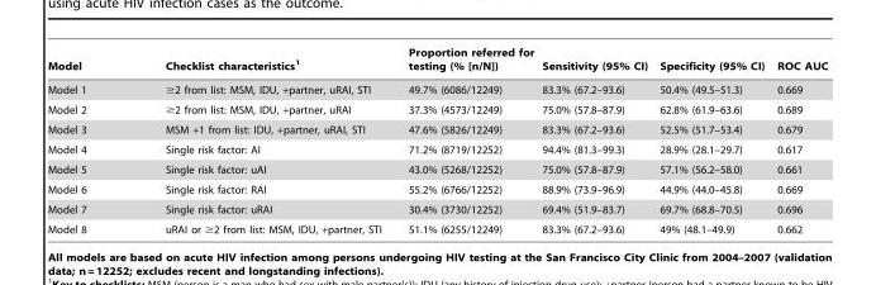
<table><thead><tr><td>Model</td><td>Checklist characteristics<sup>1</sup></td><td>Proportion referred for testing (% [n/N])</td><td>Sensitivity (95% CI)</td><td>Specificity (95% CI)</td><td>ROC AUC</td></tr></thead><tbody><tr><td>Model 1</td><td>≥2 from list: MSM, IDU, +partner, uRAI, STI</td><td>49.7% (6086/12249)</td><td>83.3% (67.2–93.6)</td><td>50.4% (49.5–51.3)</td><td>0.669</td></tr><tr><td>Model 2</td><td>≥2 from list: MSM, IDU, +partner, uRAI</td><td>37.3% (4573/12249)</td><td>75.0% (57.8–87.9)</td><td>62.8% (61.9–63.6)</td><td>0.689</td></tr><tr><td>Model 3</td><td>MSM +1 from list: IDU, +partner, uRAI, STI</td><td>47.6% (5826/12249)</td><td>83.3% (67.2–93.6)</td><td>52.5% (51.7–53.4)</td><td>0.679</td></tr><tr><td>Model 4</td><td>Single risk factor: AI</td><td>71.2% (8719/12252)</td><td>94.4% (81.3–99.3)</td><td>28.9% (28.1–29.7)</td><td>0.617</td></tr><tr><td>Model 5</td><td>Single risk factor: uAI</td><td>43.0% (5268/12252)</td><td>75.0% (57.8–87.9)</td><td>57.1% (56.2–58.0)</td><td>0.661</td></tr><tr><td>Model 6</td><td>Single risk factor: RAI</td><td>55.2% (6766/12252)</td><td>88.9% (73.9–96.9)</td><td>44.9% (44.0–45.8)</td><td>0.669</td></tr><tr><td>Model 7</td><td>Single risk factor: uRAI</td><td>30.4% (3730/12252)</td><td>69.4% (51.9–83.7)</td><td>69.7% (68.8–70.5)</td><td>0.696</td></tr><tr><td>Model 8</td><td>uRAI or ≥2 from list: MSM, IDU, +partner, STI</td><td>51.1% (6255/12249)</td><td>83.3% (67.2–93.6)</td><td>49% (48.1–49.9)</td><td>0.662</td></tr></tbody></table>